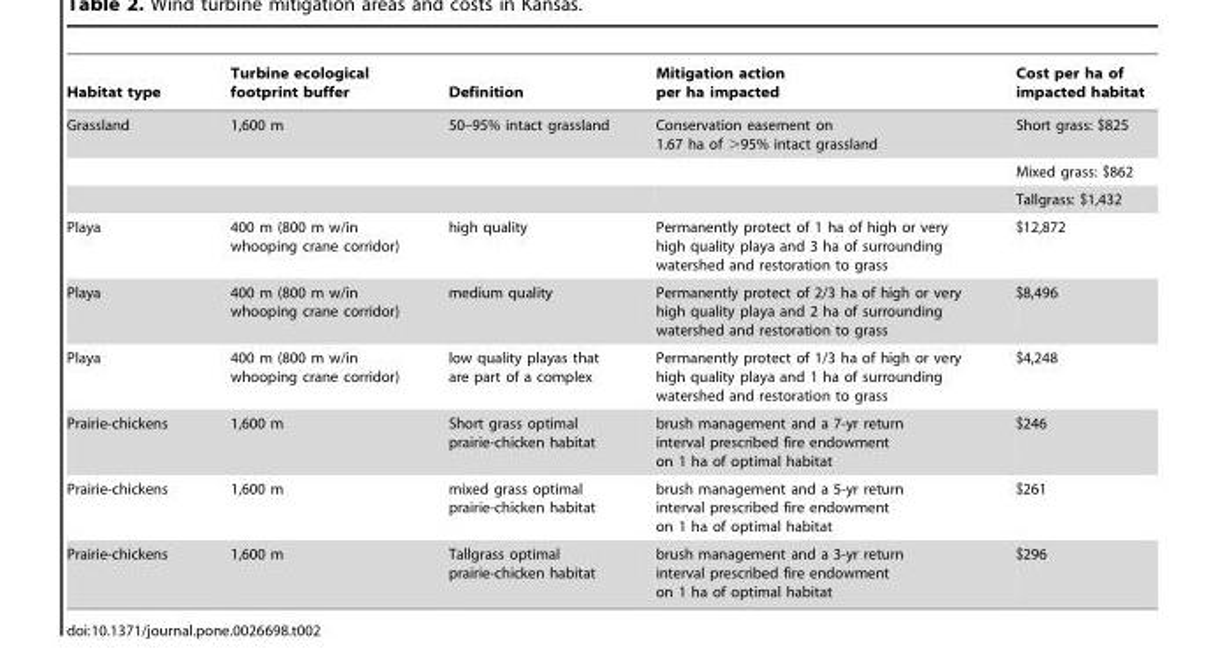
<table><thead><tr><td>Habitat type</td><td>Turbine ecological footprint buffer</td><td>Definition</td><td>Mitigation action per ha impacted</td><td>Cost per ha of impacted habitat</td></tr></thead><tbody><tr><td rowspan="3">Grassland</td><td>1,600 m</td><td>50–95% intact grassland</td><td>Conservation easement on 1.67 ha of &gt;95% intact grassland</td><td>Short grass: $825</td></tr><tr><td></td><td></td><td></td><td>Mixed grass: $862</td></tr><tr><td></td><td></td><td></td><td>Tallgrass: $1,432</td></tr><tr><td>Playa</td><td>400 m (800 m w/in whooping crane corridor)</td><td>high quality</td><td>Permanently protect of 1 ha of high or very high quality playa and 3 ha of surrounding watershed and restoration to grass</td><td>$12,872</td></tr><tr><td>Playa</td><td>400 m (800 m w/in whooping crane corridor)</td><td>medium quality</td><td>Permanently protect of 2/3 ha of high or very high quality playa and 2 ha of surrounding watershed and restoration to grass</td><td>$8,496</td></tr><tr><td>Playa</td><td>400 m (800 m w/in whooping crane corridor)</td><td>low quality playas that are part of a complex</td><td>Permanently protect of 1/3 ha of high or very high quality playa and 1 ha of surrounding watershed and restoration to grass</td><td>$4,248</td></tr><tr><td>Prairie-chickens</td><td>1,600 m</td><td>Short grass optimal prairie-chicken habitat</td><td>brush management and a 7-yr return interval prescribed fire endowment on 1 ha of optimal habitat</td><td>$246</td></tr><tr><td>Prairie-chickens</td><td>1,600 m</td><td>mixed grass optimal prairie-chicken habitat</td><td>brush management and a 5-yr return interval prescribed fire endowment on 1 ha of optimal habitat</td><td>$261</td></tr><tr><td>Prairie-chickens</td><td>1,600 m</td><td>Tallgrass optimal prairie-chicken habitat</td><td>brush management and a 3-yr return interval prescribed fire endowment on 1 ha of optimal habitat</td><td>$296</td></tr></tbody></table>